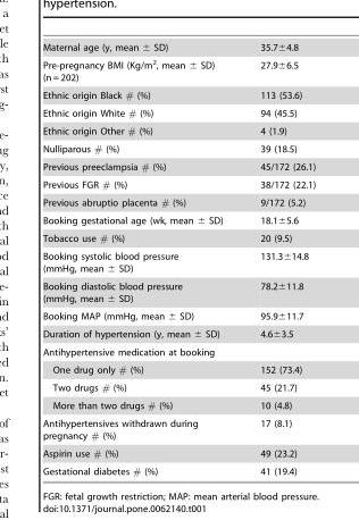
<table><tbody><tr><td>Maternal age (y, mean ± SD)</td><td>35.7±4.8</td></tr><tr><td>Pre-pregnancy BMI (Kg/m<sup>2</sup>, mean ± SD) (n = 202)</td><td>27.9±6.5</td></tr><tr><td>Ethnic origin Black # (%)</td><td>113 (53.6)</td></tr><tr><td>Ethnic origin White # (%)</td><td>94 (45.5)</td></tr><tr><td>Ethnic origin Other # (%)</td><td>4 (1.9)</td></tr><tr><td>Nulliparous # (%)</td><td>39 (18.5)</td></tr><tr><td>Previous preeclampsia # (%)</td><td>45/172 (26.1)</td></tr><tr><td>Previous FGR # (%)</td><td>38/172 (22.1)</td></tr><tr><td>Previous abruptio placenta # (%)</td><td>9/172 (5.2)</td></tr><tr><td>Booking gestational age (wk, mean ± SD)</td><td>18.1±5.6</td></tr><tr><td>Tobacco use # (%)</td><td>20 (9.5)</td></tr><tr><td>Booking systolic blood pressure (mmHg, mean ± SD)</td><td>131.3±14.8</td></tr><tr><td>Booking diastolic blood pressure (mmHg, mean ± SD)</td><td>78.2±11.8</td></tr><tr><td>Booking MAP (mmHg, mean ± SD)</td><td>95.9±11.7</td></tr><tr><td>Duration of hypertension (y, mean ± SD)</td><td>4.6±3.5</td></tr><tr><td colspan="2">Antihypertensive medication at booking</td></tr><tr><td>One drug only # (%)</td><td>152 (73.4)</td></tr><tr><td>Two drugs # (%)</td><td>45 (21.7)</td></tr><tr><td>More than two drugs # (%)</td><td>10 (4.8)</td></tr><tr><td>Antihypertensives withdrawn during pregnancy # (%)</td><td>17 (8.1)</td></tr><tr><td>Aspirin use # (%)</td><td>49 (23.2)</td></tr><tr><td>Gestational diabetes # (%)</td><td>41 (19.4)</td></tr></tbody></table>